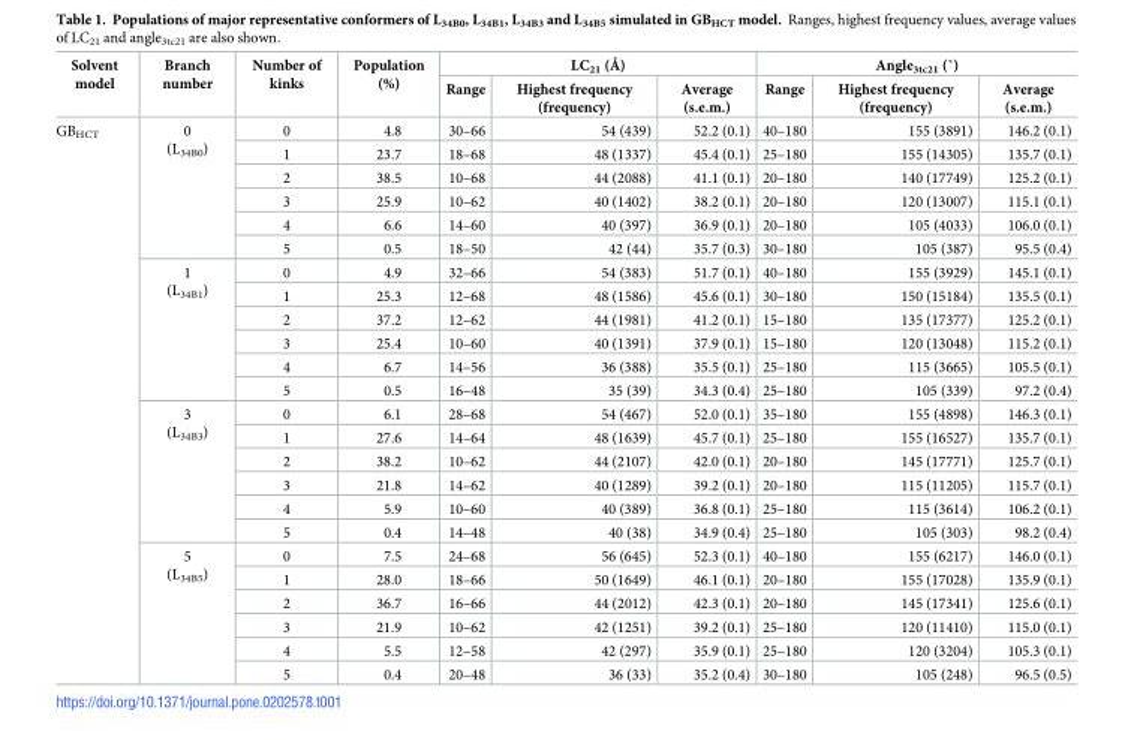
<table><thead><tr><td rowspan="2">Solvent model</td><td rowspan="2">Branch number</td><td rowspan="2">Number of kinks</td><td rowspan="2">Population (%)</td><td colspan="3">LC<sub>21</sub> (Å)</td><td colspan="3">Angle3tc21 (˚)</td></tr><tr><td>Range</td><td>Highest frequency (frequency)</td><td>Average (s.e.m.)</td><td>Range</td><td>Highest frequency (frequency)</td><td>Average (s.e.m.)</td></tr></thead><tbody><tr><td rowspan="24">GB<sub>HCT</sub></td><td rowspan="6">0 (L<sub>34B0</sub>)</td><td>0</td><td>4.8</td><td>30–66</td><td>54 (439)</td><td>52.2 (0.1)</td><td>40–180</td><td>155 (3891)</td><td>146.2 (0.1)</td></tr><tr><td>1</td><td>23.7</td><td>18–68</td><td>48 (1337)</td><td>45.4 (0.1)</td><td>25–180</td><td>155 (14305)</td><td>135.7 (0.1)</td></tr><tr><td>2</td><td>38.5</td><td>10–68</td><td>44 (2088)</td><td>41.1 (0.1)</td><td>20–180</td><td>140 (17749)</td><td>125.2 (0.1)</td></tr><tr><td>3</td><td>25.9</td><td>10–62</td><td>40 (1402)</td><td>38.2 (0.1)</td><td>20–180</td><td>120 (13007)</td><td>115.1 (0.1)</td></tr><tr><td>4</td><td>6.6</td><td>14–60</td><td>40 (397)</td><td>36.9 (0.1)</td><td>20–180</td><td>105 (4033)</td><td>106.0 (0.1)</td></tr><tr><td>5</td><td>0.5</td><td>18–50</td><td>42 (44)</td><td>35.7 (0.3)</td><td>30–180</td><td>105 (387)</td><td>95.5 (0.4)</td></tr><tr><td rowspan="6">1 (L<sub>34B1</sub>)</td><td>0</td><td>4.9</td><td>32–66</td><td>54 (383)</td><td>51.7 (0.1)</td><td>40–180</td><td>155 (3929)</td><td>145.1 (0.1)</td></tr><tr><td>1</td><td>25.3</td><td>12–68</td><td>48 (1586)</td><td>45.6 (0.1)</td><td>30–180</td><td>150 (15184)</td><td>135.5 (0.1)</td></tr><tr><td>2</td><td>37.2</td><td>12–62</td><td>44 (1981)</td><td>41.2 (0.1)</td><td>15–180</td><td>135 (17377)</td><td>125.2 (0.1)</td></tr><tr><td>3</td><td>25.4</td><td>10–60</td><td>40 (1391)</td><td>37.9 (0.1)</td><td>15–180</td><td>120 (13048)</td><td>115.2 (0.1)</td></tr><tr><td>4</td><td>6.7</td><td>14–56</td><td>36 (388)</td><td>35.5 (0.1)</td><td>25–180</td><td>115 (3665)</td><td>105.5 (0.1)</td></tr><tr><td>5</td><td>0.5</td><td>16–48</td><td>35 (39)</td><td>34.3 (0.4)</td><td>25–180</td><td>105 (339)</td><td>97.2 (0.4)</td></tr><tr><td rowspan="6">3 (L<sub>34B3</sub>)</td><td>0</td><td>6.1</td><td>28–68</td><td>54 (467)</td><td>52.0 (0.1)</td><td>35–180</td><td>155 (4898)</td><td>146.3 (0.1)</td></tr><tr><td>1</td><td>27.6</td><td>14–64</td><td>48 (1639)</td><td>45.7 (0.1)</td><td>25–180</td><td>155 (16527)</td><td>135.7 (0.1)</td></tr><tr><td>2</td><td>38.2</td><td>10–62</td><td>44 (2107)</td><td>42.0 (0.1)</td><td>20–180</td><td>145 (17771)</td><td>125.7 (0.1)</td></tr><tr><td>3</td><td>21.8</td><td>14–62</td><td>40 (1289)</td><td>39.2 (0.1)</td><td>20–180</td><td>115 (11205)</td><td>115.7 (0.1)</td></tr><tr><td>4</td><td>5.9</td><td>10–60</td><td>40 (389)</td><td>36.8 (0.1)</td><td>25–180</td><td>115 (3614)</td><td>106.2 (0.1)</td></tr><tr><td>5</td><td>0.4</td><td>14–48</td><td>40 (38)</td><td>34.9 (0.4)</td><td>25–180</td><td>105 (303)</td><td>98.2 (0.4)</td></tr><tr><td rowspan="6">5 (L<sub>34B5</sub>)</td><td>0</td><td>7.5</td><td>24–68</td><td>56 (645)</td><td>52.3 (0.1)</td><td>40–180</td><td>155 (6217)</td><td>146.0 (0.1)</td></tr><tr><td>1</td><td>28.0</td><td>18–66</td><td>50 (1649)</td><td>46.1 (0.1)</td><td>20–180</td><td>155 (17028)</td><td>135.9 (0.1)</td></tr><tr><td>2</td><td>36.7</td><td>16–66</td><td>44 (2012)</td><td>42.3 (0.1)</td><td>20–180</td><td>145 (17341)</td><td>125.6 (0.1)</td></tr><tr><td>3</td><td>21.9</td><td>10–62</td><td>42 (1251)</td><td>39.2 (0.1)</td><td>25–180</td><td>120 (11410)</td><td>115.0 (0.1)</td></tr><tr><td>4</td><td>5.5</td><td>12–58</td><td>42 (297)</td><td>35.9 (0.1)</td><td>25–180</td><td>120 (3204)</td><td>105.3 (0.1)</td></tr><tr><td>5</td><td>0.4</td><td>20–48</td><td>36 (33)</td><td>35.2 (0.4)</td><td>30–180</td><td>105 (248)</td><td>96.5 (0.5)</td></tr></tbody></table>